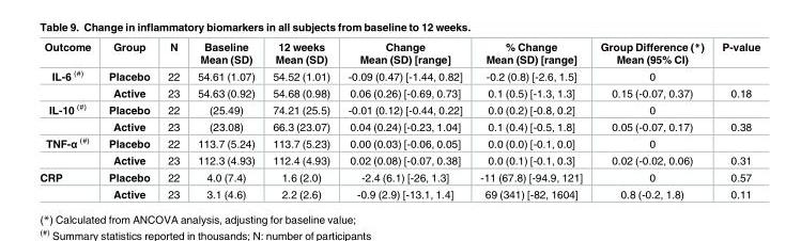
<table><thead><tr><td>Outcome</td><td>Group</td><td>N</td><td>Baseline Mean (SD)</td><td>12 weeks Mean (SD)</td><td>Change Mean (SD) [range]</td><td>% Change Mean (SD) [range]</td><td>Group Difference (*) Mean (95% CI)</td><td>P-value</td></tr></thead><tbody><tr><td rowspan="2">IL-6 <sup>(#)</sup></td><td>Placebo</td><td>22</td><td>54.61 (1.07)</td><td>54.52 (1.01)</td><td>-0.09 (0.47) [-1.44, 0.82]</td><td>-0.2 (0.8) [-2.6, 1.5]</td><td>0</td><td></td></tr><tr><td>Active</td><td>23</td><td>54.63 (0.92)</td><td>54.68 (0.98)</td><td>0.06 (0.26) [-0.69, 0.73]</td><td>0.1 (0.5) [-1.3, 1.3]</td><td>0.15 (-0.07, 0.37)</td><td>0.18</td></tr><tr><td rowspan="2">IL-10 <sup>(#)</sup></td><td>Placebo</td><td>22</td><td>(25.49)</td><td>74.21 (25.5)</td><td>-0.01 (0.12) [-0.44, 0.22]</td><td>0.0 (0.2) [-0.8, 0.2]</td><td>0</td><td></td></tr><tr><td>Active</td><td>23</td><td>(23.08)</td><td>66.3 (23.07)</td><td>0.04 (0.24) [-0.23, 1.04]</td><td>0.1 (0.4) [-0.5, 1.8]</td><td>0.05 (-0.07, 0.17)</td><td>0.38</td></tr><tr><td rowspan="2">TNF-α <sup>(#)</sup></td><td>Placebo</td><td>22</td><td>113.7 (5.24)</td><td>113.7 (5.23)</td><td>0.00 (0.03) [-0.06, 0.05]</td><td>0.0 (0.0) [-0.1, 0.0]</td><td>0</td><td></td></tr><tr><td>Active</td><td>23</td><td>112.3 (4.93)</td><td>112.4 (4.93)</td><td>0.02 (0.08) [-0.07, 0.38]</td><td>0.0 (0.1) [-0.1, 0.3]</td><td>0.02 (-0.02, 0.06)</td><td>0.31</td></tr><tr><td rowspan="2">CRP</td><td>Placebo</td><td>22</td><td>4.0 (7.4)</td><td>1.6 (2.0)</td><td>-2.4 (6.1) [-26, 1.3]</td><td>-11 (67.8) [-94.9, 121]</td><td>0</td><td>0.57</td></tr><tr><td>Active</td><td>23</td><td>3.1 (4.6)</td><td>2.2 (2.6)</td><td>-0.9 (2.9) [-13.1, 1.4]</td><td>69 (341) [-82, 1604]</td><td>0.8 (-0.2, 1.8)</td><td>0.11</td></tr></tbody></table>